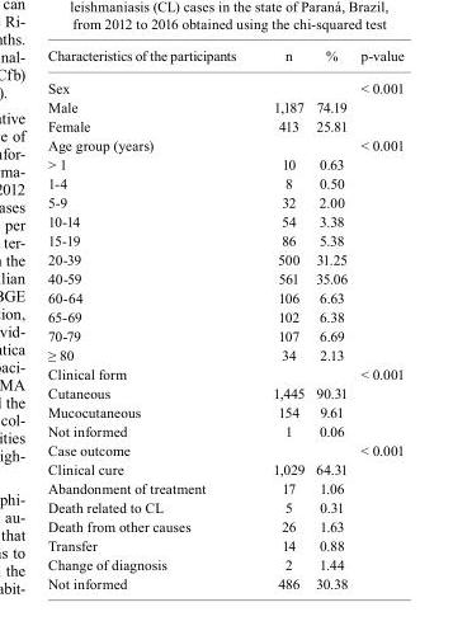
<table><thead><tr><td>Characteristics of the participants</td><td>n</td><td>%</td><td>p-value</td></tr></thead><tbody><tr><td>Sex</td><td></td><td></td><td>&lt; 0.001</td></tr><tr><td>Male</td><td>1,187</td><td>74.19</td><td></td></tr><tr><td>Female</td><td>413</td><td>25.81</td><td></td></tr><tr><td>Age group (years)</td><td></td><td></td><td>&lt; 0.001</td></tr><tr><td>&gt; 1</td><td>10</td><td>0.63</td><td></td></tr><tr><td>1-4</td><td>8</td><td>0.50</td><td></td></tr><tr><td>5-9</td><td>32</td><td>2.00</td><td></td></tr><tr><td>10-14</td><td>54</td><td>3.38</td><td></td></tr><tr><td>15-19</td><td>86</td><td>5.38</td><td></td></tr><tr><td>20-39</td><td>500</td><td>31.25</td><td></td></tr><tr><td>40-59</td><td>561</td><td>35.06</td><td></td></tr><tr><td>60-64</td><td>106</td><td>6.63</td><td></td></tr><tr><td>65-69</td><td>102</td><td>6.38</td><td></td></tr><tr><td>70-79</td><td>107</td><td>6.69</td><td></td></tr><tr><td>≥ 80</td><td>34</td><td>2.13</td><td></td></tr><tr><td>Clinical form</td><td></td><td></td><td>&lt; 0.001</td></tr><tr><td>Cutaneous</td><td>1,445</td><td>90.31</td><td></td></tr><tr><td>Mucocutaneous</td><td>154</td><td>9.61</td><td></td></tr><tr><td>Not informed</td><td>1</td><td>0.06</td><td></td></tr><tr><td>Case outcome</td><td></td><td></td><td>&lt; 0.001</td></tr><tr><td>Clinical cure</td><td>1,029</td><td>64.31</td><td></td></tr><tr><td>Abandonment of treatment</td><td>17</td><td>1.06</td><td></td></tr><tr><td>Death related to CL</td><td>5</td><td>0.31</td><td></td></tr><tr><td>Death from other causes</td><td>26</td><td>1.63</td><td></td></tr><tr><td>Transfer</td><td>14</td><td>0.88</td><td></td></tr><tr><td>Change of diagnosis</td><td>2</td><td>1.44</td><td></td></tr><tr><td>Not informed</td><td>486</td><td>30.38</td><td></td></tr></tbody></table>